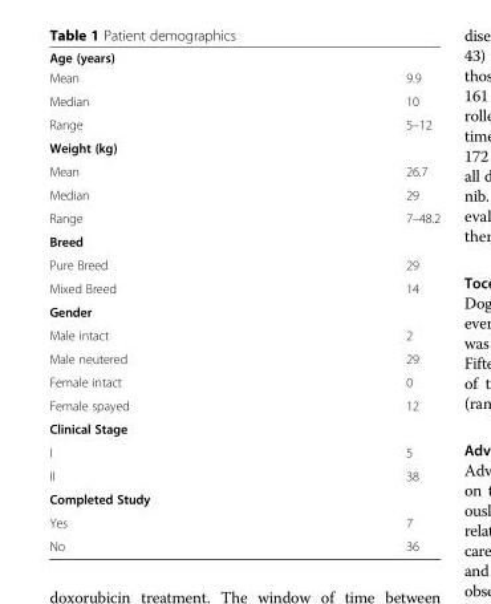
<table><thead><tr><td>Age (years)</td><td></td></tr></thead><tbody><tr><td>Mean</td><td>9.9</td></tr><tr><td>Median</td><td>10</td></tr><tr><td>Range</td><td>5–12</td></tr><tr><td colspan="2">Weight (kg)</td></tr><tr><td>Mean</td><td>26.7</td></tr><tr><td>Median</td><td>29</td></tr><tr><td>Range</td><td>7–48.2</td></tr><tr><td colspan="2">Breed</td></tr><tr><td>Pure Breed</td><td>29</td></tr><tr><td>Mixed Breed</td><td>14</td></tr><tr><td colspan="2">Gender</td></tr><tr><td>Male intact</td><td>2</td></tr><tr><td>Male neutered</td><td>29</td></tr><tr><td>Female intact</td><td>0</td></tr><tr><td>Female spayed</td><td>12</td></tr><tr><td colspan="2">Clinical Stage</td></tr><tr><td>I</td><td>5</td></tr><tr><td>II</td><td>38</td></tr><tr><td colspan="2">Completed Study</td></tr><tr><td>Yes</td><td>7</td></tr><tr><td>No</td><td>36</td></tr></tbody></table>